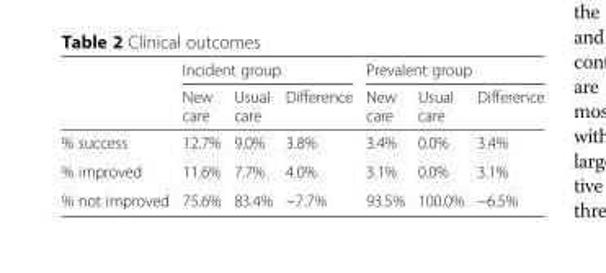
<table><thead><tr><td rowspan="2"></td><td colspan="3">Incident group</td><td colspan="3">Prevalent group</td></tr><tr><td>New care</td><td>Usual care</td><td>Difference</td><td>New care</td><td>Usual care</td><td>Difference</td></tr></thead><tbody><tr><td>% success</td><td>12.7%</td><td>9.0%</td><td>3.8%</td><td>3.4%</td><td>0.0%</td><td>3.4%</td></tr><tr><td>% improved</td><td>11.6%</td><td>7.7%</td><td>4.0%</td><td>3.1%</td><td>0.0%</td><td>3.1%</td></tr><tr><td>% not improved</td><td>75.6%</td><td>83.4%</td><td>−7.7%</td><td>93.5%</td><td>100.0%</td><td>−6.5%</td></tr></tbody></table>